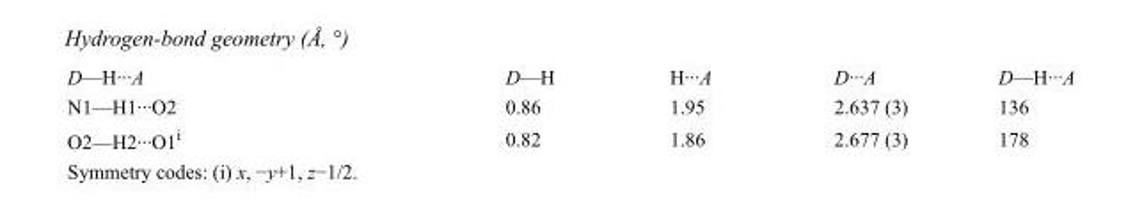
<table><tbody><tr><td>D—H···A</td><td>D—H</td><td>H···A</td><td>D···A</td><td>D—H···A</td></tr><tr><td>N1—H1···O2</td><td>0.86</td><td>1.95</td><td>2.637 (3)</td><td>136</td></tr><tr><td>O2—H2···O1<sup>i</sup></td><td>0.82</td><td>1.86</td><td>2.677 (3)</td><td>178</td></tr></tbody></table>